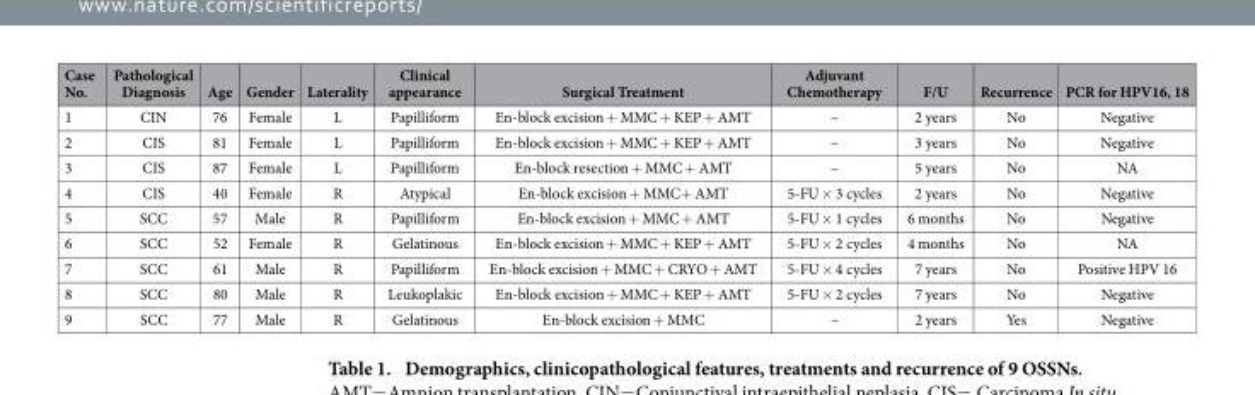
<table><thead><tr><td>Case No.</td><td>Pathological Diagnosis</td><td>Age</td><td>Gender</td><td>Laterality</td><td>Clinical appearance</td><td>Surgical Treatment</td><td>Adjuvant Chemotherapy</td><td>F/U</td><td>Recurrence</td><td>PCR for HPV16, 18</td></tr></thead><tbody><tr><td>1</td><td>CIN</td><td>76</td><td>Female</td><td>L</td><td>Papilliform</td><td>En-block excision + MMC + KEP + AMT</td><td>–</td><td>2 years</td><td>No</td><td>Negative</td></tr><tr><td>2</td><td>CIS</td><td>81</td><td>Female</td><td>L</td><td>Papilliform</td><td>En-block excision + MMC + KEP + AMT</td><td>–</td><td>3 years</td><td>No</td><td>Negative</td></tr><tr><td>3</td><td>CIS</td><td>87</td><td>Female</td><td>L</td><td>Papilliform</td><td>En-block resection + MMC + AMT</td><td>–</td><td>5 years</td><td>No</td><td>NA</td></tr><tr><td>4</td><td>CIS</td><td>40</td><td>Female</td><td>R</td><td>Atypical</td><td>En-block excision + MMC+ AMT</td><td>5-FU × 3 cycles</td><td>2 years</td><td>No</td><td>Negative</td></tr><tr><td>5</td><td>SCC</td><td>57</td><td>Male</td><td>R</td><td>Papilliform</td><td>En-block excision + MMC + AMT</td><td>5-FU × 1 cycles</td><td>6 months</td><td>No</td><td>Negative</td></tr><tr><td>6</td><td>SCC</td><td>52</td><td>Female</td><td>R</td><td>Gelatinous</td><td>En-block excision + MMC + KEP + AMT</td><td>5-FU × 2 cycles</td><td>4 months</td><td>No</td><td>NA</td></tr><tr><td>7</td><td>SCC</td><td>61</td><td>Male</td><td>R</td><td>Papilliform</td><td>En-block excision + MMC + CRYO + AMT</td><td>5-FU × 4 cycles</td><td>7 years</td><td>No</td><td>Positive HPV 16</td></tr><tr><td>8</td><td>SCC</td><td>80</td><td>Male</td><td>R</td><td>Leukoplakic</td><td>En-block excision + MMC + KEP + AMT</td><td>5-FU × 2 cycles</td><td>7 years</td><td>No</td><td>Negative</td></tr><tr><td>9</td><td>SCC</td><td>77</td><td>Male</td><td>R</td><td>Gelatinous</td><td>En-block excision + MMC</td><td>–</td><td>2 years</td><td>Yes</td><td>Negative</td></tr></tbody></table>